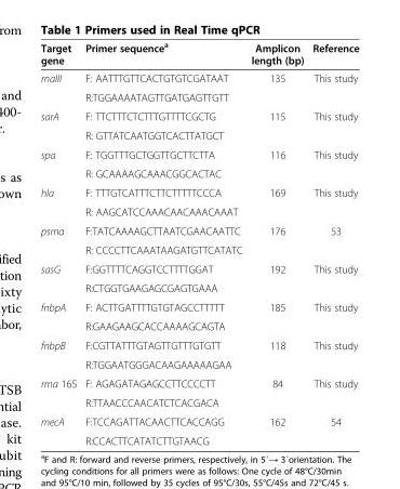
<table><thead><tr><td>Target gene</td><td>Primer sequence<sup>a</sup></td><td>Amplicon length (bp)</td><td>Reference</td></tr></thead><tbody><tr><td rowspan="2">rnaIII</td><td>F: AATTTGTTCACTGTGTCGATAAT</td><td rowspan="2">135</td><td rowspan="2">This study</td></tr><tr><td>R:TGGAAAATAGTTGATGAGTTGTT</td></tr><tr><td rowspan="2">sarA</td><td>F: TTCTTTCTCTTTGTTTTCGCTG</td><td rowspan="2">115</td><td rowspan="2">This study</td></tr><tr><td>R: GTTATCAATGGTCACTTATGCT</td></tr><tr><td rowspan="2">spa</td><td>F: TGGTTTGCTGGTTGCTTCTTA</td><td rowspan="2">116</td><td rowspan="2">This study</td></tr><tr><td>R: GCAAAAGCAAACGGCACTAC</td></tr><tr><td rowspan="2">hla</td><td>F: TTTGTCATTTCTTCTTTTTCCCA</td><td rowspan="2">169</td><td rowspan="2">This study</td></tr><tr><td>R: AAGCATCCAAACAACAAACAAAT</td></tr><tr><td rowspan="2">psmα</td><td>F:TATCAAAAGCTTAATCGAACAATTC</td><td rowspan="2">176</td><td rowspan="2">53</td></tr><tr><td>R: CCCCTTCAAATAAGATGTTCATATC</td></tr><tr><td rowspan="2">sasG</td><td>F:GGTTTTCAGGTCCTTTTGGAT</td><td rowspan="2">192</td><td rowspan="2">This study</td></tr><tr><td>R:CTGGTGAAGAGCGAGTGAAA</td></tr><tr><td rowspan="2">fnbpA</td><td>F: ACTTGATTTTGTGTAGCCTTTTT</td><td rowspan="2">185</td><td rowspan="2">This study</td></tr><tr><td>R:GAAGAAGCACCAAAAGCAGTA</td></tr><tr><td rowspan="2">fnbpB</td><td>F:CGTTATTTGTAGTTGTTTGTGTT</td><td rowspan="2">118</td><td rowspan="2">This study</td></tr><tr><td>R:TGGAATGGGACAAGAAAAAGAA</td></tr><tr><td rowspan="2">rrna 16S</td><td>F: AGAGATAGAGCCTTCCCCTT</td><td rowspan="2">84</td><td rowspan="2">This study</td></tr><tr><td>R:TTAACCCAACATCTCACGACA</td></tr><tr><td rowspan="2">mecA</td><td>F:TCCAGATTACAACTTCACCAGG</td><td>162</td><td>54</td></tr><tr><td>R:CCACTTCATATCTTGTAACG</td><td></td><td></td></tr></tbody></table>